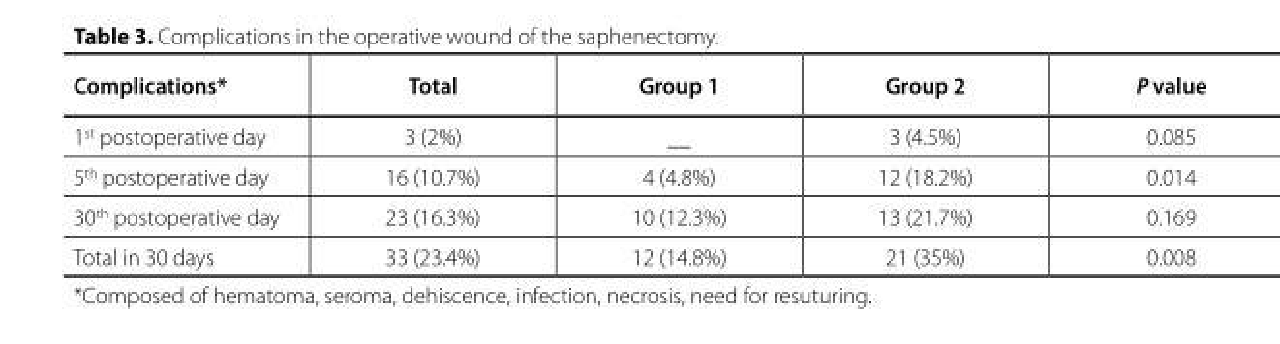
<table><thead><tr><td>Complications*</td><td>Total</td><td>Group 1</td><td>Group 2</td><td>P value</td></tr></thead><tbody><tr><td>1<sup>st</sup> postoperative day</td><td>3 (2%)</td><td>__</td><td>3 (4.5%)</td><td>0.085</td></tr><tr><td>5<sup>th</sup> postoperative day</td><td>16 (10.7%)</td><td>4 (4.8%)</td><td>12 (18.2%)</td><td>0.014</td></tr><tr><td>30<sup>th</sup> postoperative day</td><td>23 (16.3%)</td><td>10 (12.3%)</td><td>13 (21.7%)</td><td>0.169</td></tr><tr><td>Total in 30 days</td><td>33 (23.4%)</td><td>12 (14.8%)</td><td>21 (35%)</td><td>0.008</td></tr></tbody></table>